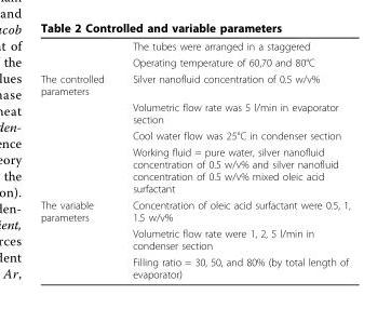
<table><thead><tr><td></td><td>The tubes were arranged in a staggered</td></tr></thead><tbody><tr><td></td><td>Operating temperature of 60,70 and 80°C</td></tr><tr><td rowspan="4">The controlled parameters</td><td>Silver nanofluid concentration of 0.5 w/v%</td></tr><tr><td>Volumetric flow rate was 5 l/min in evaporator section</td></tr><tr><td>Cool water flow was 25°C in condenser section</td></tr><tr><td>Working fluid = pure water, silver nanofluid concentration of 0.5 w/v% and silver nanofluid concentration of 0.5 w/v% mixed oleic acid surfactant</td></tr><tr><td rowspan="3">The variable parameters</td><td>Concentration of oleic acid surfactant were 0.5, 1, 1.5 w/v%</td></tr><tr><td>Volumetric flow rate were 1, 2, 5 l/min in condenser section</td></tr><tr><td>Filling ratio = 30, 50, and 80% (by total length of evaporator)</td></tr></tbody></table>